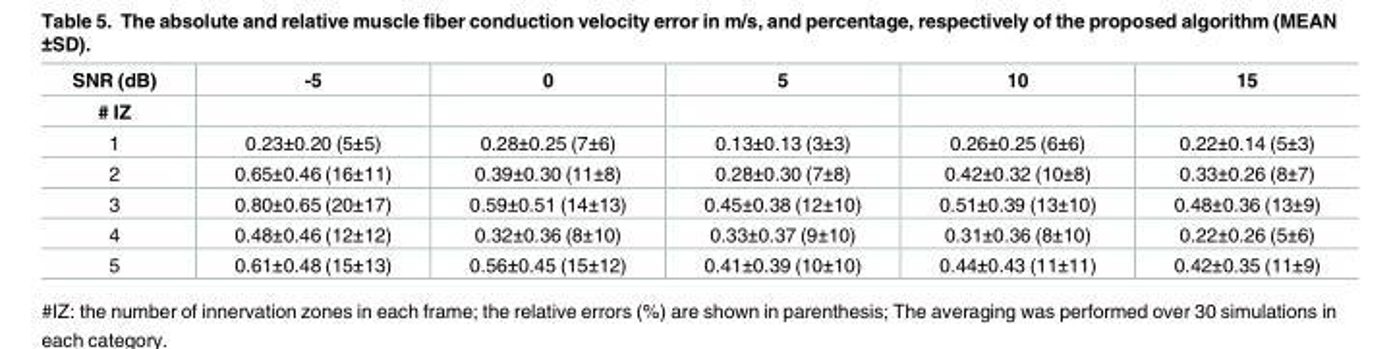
<table><thead><tr><td rowspan="2">SNR (dB) # IZ</td><td rowspan="2">-5</td><td rowspan="2">0</td><td rowspan="2">5</td><td rowspan="2">10</td><td rowspan="2">15</td></tr><tr></tr></thead><tbody><tr><td>1</td><td>0.23±0.20 (5±5)</td><td>0.28±0.25 (7±6)</td><td>0.13±0.13 (3±3)</td><td>0.26±0.25 (6±6)</td><td>0.22±0.14 (5±3)</td></tr><tr><td>2</td><td>0.65±0.46 (16±11)</td><td>0.39±0.30 (11±8)</td><td>0.28±0.30 (7±8)</td><td>0.42±0.32 (10±8)</td><td>0.33±0.26 (8±7)</td></tr><tr><td>3</td><td>0.80±0.65 (20±17)</td><td>0.59±0.51 (14±13)</td><td>0.45±0.38 (12±10)</td><td>0.51±0.39 (13±10)</td><td>0.48±0.36 (13±9)</td></tr><tr><td>4</td><td>0.48±0.46 (12±12)</td><td>0.32±0.36 (8±10)</td><td>0.33±0.37 (9±10)</td><td>0.31±0.36 (8±10)</td><td>0.22±0.26 (5±6)</td></tr><tr><td>5</td><td>0.61±0.48 (15±13)</td><td>0.56±0.45 (15±12)</td><td>0.41±0.39 (10±10)</td><td>0.44±0.43 (11±11)</td><td>0.42±0.35 (11±9)</td></tr></tbody></table>